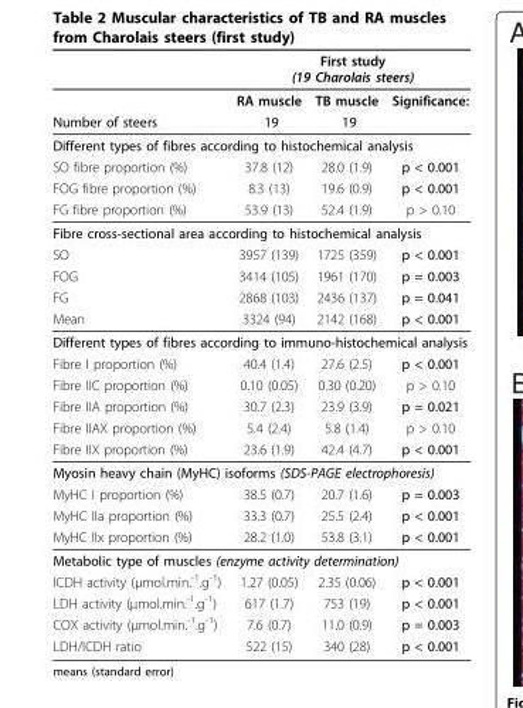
<table><thead><tr><td rowspan="2"></td><td colspan="3">First study (19 Charolais steers)</td></tr><tr><td>RA muscle</td><td>TB muscle</td><td>Significance:</td></tr></thead><tbody><tr><td>Number of steers</td><td>19</td><td>19</td><td></td></tr><tr><td colspan="4">Different types of fibres according to histochemical analysis</td></tr><tr><td>SO fibre proportion (%)</td><td>37.8 (12)</td><td>28.0 (1.9)</td><td>p &lt; 0.001</td></tr><tr><td>FOG fibre proportion (%)</td><td>8.3 (13)</td><td>19.6 (0.9)</td><td>p &lt; 0.001</td></tr><tr><td>FG fibre proportion (%)</td><td>53.9 (13)</td><td>52.4 (1.9)</td><td>p &gt; 0.10</td></tr><tr><td colspan="4">Fibre cross-sectional area according to histochemical analysis</td></tr><tr><td>SO</td><td>3957 (139)</td><td>1725 (359)</td><td>p &lt; 0.001</td></tr><tr><td>FOG</td><td>3414 (105)</td><td>1961 (170)</td><td>p = 0.003</td></tr><tr><td>FG</td><td>2868 (103)</td><td>2436 (137)</td><td>p = 0.041</td></tr><tr><td>Mean</td><td>3324 (94)</td><td>2142 (168)</td><td>p &lt; 0.001</td></tr><tr><td colspan="4">Different types of fibres according to immuno-histochemical analysis</td></tr><tr><td>Fibre I proportion (%)</td><td>40.4 (1.4)</td><td>27.6 (2.5)</td><td>p &lt; 0.001</td></tr><tr><td>Fibre IIC proportion (%)</td><td>0.10 (0.05)</td><td>0.30 (0.20)</td><td>p &gt; 0.10</td></tr><tr><td>Fibre IIA proportion (%)</td><td>30.7 (2.3)</td><td>23.9 (3.9)</td><td>p = 0.021</td></tr><tr><td>Fibre IIAX proportion (%)</td><td>5.4 (2.4)</td><td>5.8 (1.4)</td><td>p &gt; 0.10</td></tr><tr><td>Fibre IIX proportion (%)</td><td>23.6 (1.9)</td><td>42.4 (4.7)</td><td>p &lt; 0.001</td></tr><tr><td colspan="4">Myosin heavy chain (MyHC) isoforms (SDS-PAGE electrophoresis)</td></tr><tr><td>MyHC I proportion (%)</td><td>38.5 (0.7)</td><td>20.7 (1.6)</td><td>p = 0.003</td></tr><tr><td>MyHC IIa proportion (%)</td><td>33.3 (0.7)</td><td>25.5 (2.4)</td><td>p &lt; 0.001</td></tr><tr><td>MyHC IIx proportion (%)</td><td>28.2 (1.0)</td><td>53.8 (3.1)</td><td>p &lt; 0.001</td></tr><tr><td colspan="4">Metabolic type of muscles (enzyme activity determination)</td></tr><tr><td>ICDH activity (μmol.min.<sup>-1</sup>.g<sup>-1</sup>)</td><td>1.27 (0.05)</td><td>2.35 (0.06)</td><td>p &lt; 0.001</td></tr><tr><td>LDH activity (μmol.min.<sup>-1</sup>.g<sup>-1</sup>)</td><td>617 (1.7)</td><td>753 (19)</td><td>p &lt; 0.001</td></tr><tr><td>COX activity (μmol.min.<sup>-1</sup>.g<sup>-1</sup>)</td><td>7.6 (0.7)</td><td>11.0 (0.9)</td><td>p = 0.003</td></tr><tr><td>LDH/ICDH ratio</td><td>522 (15)</td><td>340 (28)</td><td>p &lt; 0.001</td></tr></tbody></table>